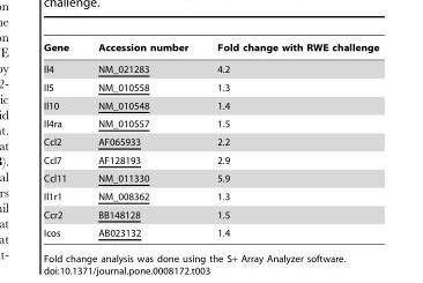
<table><thead><tr><td>Gene</td><td>Accession number</td><td>Fold change with RWE challenge</td></tr></thead><tbody><tr><td>Il4</td><td>NM_021283</td><td>4.2</td></tr><tr><td>Il5</td><td>NM_010558</td><td>1.3</td></tr><tr><td>Il10</td><td>NM_010548</td><td>1.4</td></tr><tr><td>Il4ra</td><td>NM_010557</td><td>1.5</td></tr><tr><td>Ccl2</td><td>AF065933</td><td>2.2</td></tr><tr><td>Ccl7</td><td>AF128193</td><td>2.9</td></tr><tr><td>Ccl11</td><td>NM_011330</td><td>5.9</td></tr><tr><td>Il1r1</td><td>NM_008362</td><td>1.3</td></tr><tr><td>Ccr2</td><td>BB148128</td><td>1.5</td></tr><tr><td>Icos</td><td>AB023132</td><td>1.4</td></tr></tbody></table>